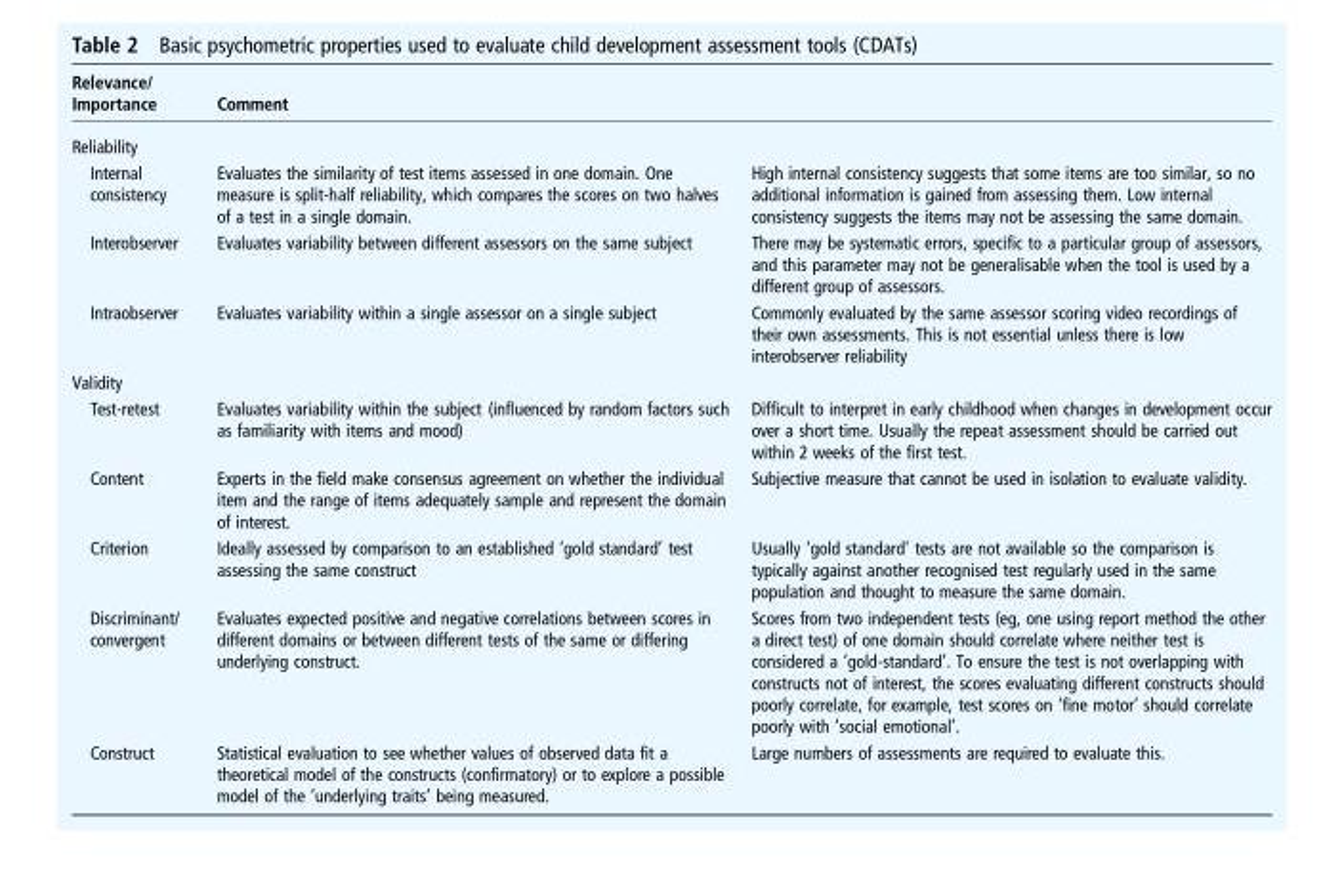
<table><thead><tr><td>Relevance/ Importance</td><td>Comment</td><td></td></tr></thead><tbody><tr><td colspan="3">Reliability</td></tr><tr><td>Internal consistency</td><td>Evaluates the similarity of test items assessed in one domain. One measure is split-half reliability, which compares the scores on two halves of a test in a single domain.</td><td>High internal consistency suggests that some items are too similar, so no additional information is gained from assessing them. Low internal consistency suggests the items may not be assessing the same domain.</td></tr><tr><td>Interobserver</td><td>Evaluates variability between different assessors on the same subject</td><td>There may be systematic errors, specific to a particular group of assessors, and this parameter may not be generalisable when the tool is used by a different group of assessors.</td></tr><tr><td>Intraobserver</td><td>Evaluates variability within a single assessor on a single subject</td><td>Commonly evaluated by the same assessor scoring video recordings of their own assessments. This is not essential unless there is low interobserver reliability</td></tr><tr><td colspan="3">Validity</td></tr><tr><td>Test-retest</td><td>Evaluates variability within the subject (influenced by random factors such as familiarity with items and mood)</td><td>Difficult to interpret in early childhood when changes in development occur over a short time. Usually the repeat assessment should be carried out within 2 weeks of the first test.</td></tr><tr><td>Content</td><td>Experts in the field make consensus agreement on whether the individual item and the range of items adequately sample and represent the domain of interest.</td><td>Subjective measure that cannot be used in isolation to evaluate validity.</td></tr><tr><td>Criterion</td><td>Ideally assessed by comparison to an established ‘gold standard’ test assessing the same construct</td><td>Usually ‘gold standard’ tests are not available so the comparison is typically against another recognised test regularly used in the same population and thought to measure the same domain.</td></tr><tr><td>Discriminant/ convergent</td><td>Evaluates expected positive and negative correlations between scores in different domains or between different tests of the same or differing underlying construct.</td><td>Scores from two independent tests (eg, one using report method the other a direct test) of one domain should correlate where neither test is considered a ‘gold-standard’. To ensure the test is not overlapping with constructs not of interest, the scores evaluating different constructs should poorly correlate, for example, test scores on ‘fine motor’ should correlate poorly with ‘social emotional’.</td></tr><tr><td>Construct</td><td>Statistical evaluation to see whether values of observed data fit a theoretical model of the constructs (confirmatory) or to explore a possible model of the ‘underlying traits’ being measured.</td><td>Large numbers of assessments are required to evaluate this.</td></tr></tbody></table>